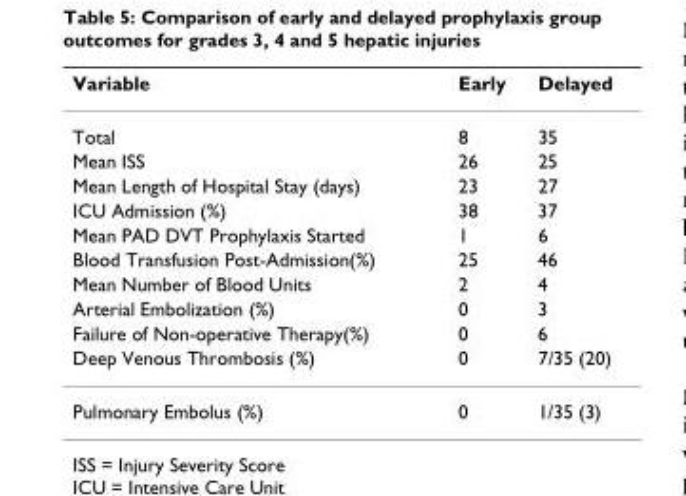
<table><thead><tr><td>Variable</td><td>Early</td><td>Delayed</td></tr></thead><tbody><tr><td>Total</td><td>8</td><td>35</td></tr><tr><td>Mean ISS</td><td>26</td><td>25</td></tr><tr><td>Mean Length of Hospital Stay (days)</td><td>23</td><td>27</td></tr><tr><td>ICU Admission (%)</td><td>38</td><td>37</td></tr><tr><td>Mean PAD DVT Prophylaxis Started</td><td>1</td><td>6</td></tr><tr><td>Blood Transfusion Post-Admission(%)</td><td>25</td><td>46</td></tr><tr><td>Mean Number of Blood Units</td><td>2</td><td>4</td></tr><tr><td>Arterial Embolization (%)</td><td>0</td><td>3</td></tr><tr><td>Failure of Non-operative Therapy(%)</td><td>0</td><td>6</td></tr><tr><td>Deep Venous Thrombosis (%)</td><td>0</td><td>7/35 (20)</td></tr><tr><td>Pulmonary Embolus (%)</td><td>0</td><td>1/35 (3)</td></tr></tbody></table>